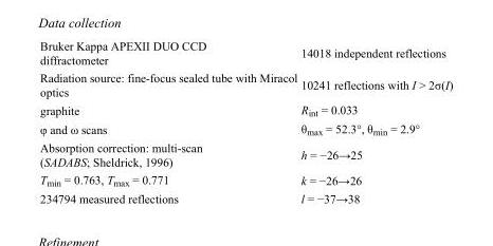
<table><tbody><tr><td>Bruker Kappa APEXII DUO CCD diffractometer</td><td>14018 independent reflections</td></tr><tr><td>Radiation source: fine-focus sealed tube with Miracol optics</td><td>10241 reflections with I &gt; 2σ(I)</td></tr><tr><td>graphite</td><td>R<sub>int</sub> = 0.033</td></tr><tr><td>φ and ω scans</td><td>θ<sub>max</sub> = 52.3°, θ<sub>min</sub> = 2.9°</td></tr><tr><td>Absorption correction: multi-scan (SADABS; Sheldrick, 1996)</td><td>h = −26→25</td></tr><tr><td>T<sub>min</sub> = 0.763, T<sub>max</sub> = 0.771</td><td>k = −26→26</td></tr><tr><td>234794 measured reflections</td><td>l = −37→38</td></tr></tbody></table>